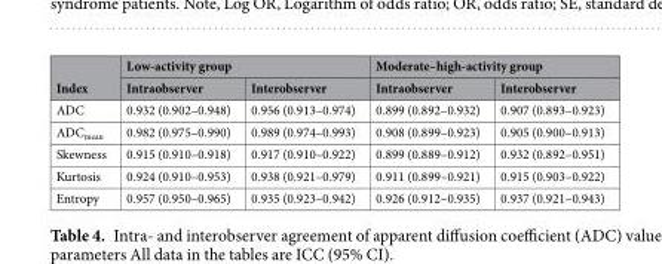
<table><thead><tr><td rowspan="2">Index</td><td colspan="2">Low-activity group</td><td colspan="2">Moderate–high-activity group</td></tr><tr><td>Intraobserver</td><td>Interobserver</td><td>Intraobserver</td><td>Interobserver</td></tr></thead><tbody><tr><td>ADC</td><td>0.932 (0.902–0.948)</td><td>0.956 (0.913–0.974)</td><td>0.899 (0.892–0.932)</td><td>0.907 (0.893–0.923)</td></tr><tr><td>ADC<sub>mean</sub></td><td>0.982 (0.975–0.990)</td><td>0.989 (0.974–0.993)</td><td>0.908 (0.899–0.923)</td><td>0.905 (0.900–0.913)</td></tr><tr><td>Skewness</td><td>0.915 (0.910–0.918)</td><td>0.917 (0.910–0.922)</td><td>0.899 (0.889–0.912)</td><td>0.932 (0.892–0.951)</td></tr><tr><td>Kurtosis</td><td>0.924 (0.910–0.953)</td><td>0.938 (0.921–0.979)</td><td>0.911 (0.899–0.921)</td><td>0.915 (0.903–0.922)</td></tr><tr><td>Entropy</td><td>0.957 (0.950–0.965)</td><td>0.935 (0.923–0.942)</td><td>0.926 (0.912–0.935)</td><td>0.937 (0.921–0.943)</td></tr></tbody></table>